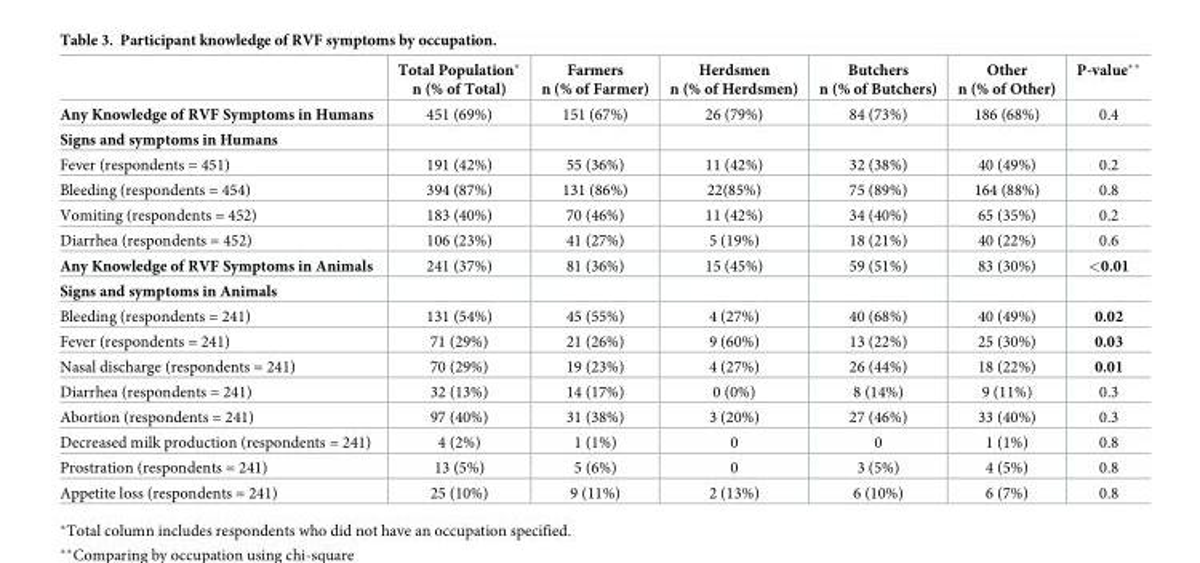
<table><thead><tr><td></td><td>Total Population* n (% of Total)</td><td>Farmers n (% of Farmer)</td><td>Herdsmen n (% of Herdsmen)</td><td>Butchers n (% of Butchers)</td><td>Other n (% of Other)</td><td>P-value**</td></tr></thead><tbody><tr><td>Any Knowledge of RVF Symptoms in Humans</td><td>451 (69%)</td><td>151 (67%)</td><td>26 (79%)</td><td>84 (73%)</td><td>186 (68%)</td><td>0.4</td></tr><tr><td colspan="7">Signs and symptoms in Humans</td></tr><tr><td>Fever (respondents = 451)</td><td>191 (42%)</td><td>55 (36%)</td><td>11 (42%)</td><td>32 (38%)</td><td>40 (49%)</td><td>0.2</td></tr><tr><td>Bleeding (respondents = 454)</td><td>394 (87%)</td><td>131 (86%)</td><td>22(85%)</td><td>75 (89%)</td><td>164 (88%)</td><td>0.8</td></tr><tr><td>Vomiting (respondents = 452)</td><td>183 (40%)</td><td>70 (46%)</td><td>11 (42%)</td><td>34 (40%)</td><td>65 (35%)</td><td>0.2</td></tr><tr><td>Diarrhea (respondents = 452)</td><td>106 (23%)</td><td>41 (27%)</td><td>5 (19%)</td><td>18 (21%)</td><td>40 (22%)</td><td>0.6</td></tr><tr><td>Any Knowledge of RVF Symptoms in Animals</td><td>241 (37%)</td><td>81 (36%)</td><td>15 (45%)</td><td>59 (51%)</td><td>83 (30%)</td><td>&lt;0.01</td></tr><tr><td colspan="7">Signs and symptoms in Animals</td></tr><tr><td>Bleeding (respondents = 241)</td><td>131 (54%)</td><td>45 (55%)</td><td>4 (27%)</td><td>40 (68%)</td><td>40 (49%)</td><td>0.02</td></tr><tr><td>Fever (respondents = 241)</td><td>71 (29%)</td><td>21 (26%)</td><td>9 (60%)</td><td>13 (22%)</td><td>25 (30%)</td><td>0.03</td></tr><tr><td>Nasal discharge (respondents = 241)</td><td>70 (29%)</td><td>19 (23%)</td><td>4 (27%)</td><td>26 (44%)</td><td>18 (22%)</td><td>0.01</td></tr><tr><td>Diarrhea (respondents = 241)</td><td>32 (13%)</td><td>14 (17%)</td><td>0 (0%)</td><td>8 (14%)</td><td>9 (11%)</td><td>0.3</td></tr><tr><td>Abortion (respondents = 241)</td><td>97 (40%)</td><td>31 (38%)</td><td>3 (20%)</td><td>27 (46%)</td><td>33 (40%)</td><td>0.3</td></tr><tr><td>Decreased milk production (respondents = 241)</td><td>4 (2%)</td><td>1 (1%)</td><td>0</td><td>0</td><td>1 (1%)</td><td>0.8</td></tr><tr><td>Prostration (respondents = 241)</td><td>13 (5%)</td><td>5 (6%)</td><td>0</td><td>3 (5%)</td><td>4 (5%)</td><td>0.8</td></tr><tr><td>Appetite loss (respondents = 241)</td><td>25 (10%)</td><td>9 (11%)</td><td>2 (13%)</td><td>6 (10%)</td><td>6 (7%)</td><td>0.8</td></tr></tbody></table>